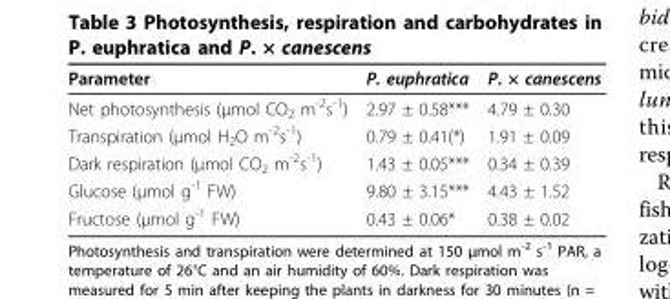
<table><thead><tr><td>Parameter</td><td>P. euphratica</td><td>P. × canescens</td></tr></thead><tbody><tr><td>Net photosynthesis (μmol CO<sub>2</sub> m<sup>-2</sup>s<sup>-1</sup>)</td><td>2.97 ± 0.58***</td><td>4.79 ± 0.30</td></tr><tr><td>Transpiration (μmol H<sub>2</sub>O m<sup>-2</sup>s<sup>-1</sup>)</td><td>0.79 ± 0.41(*)</td><td>1.91 ± 0.09</td></tr><tr><td>Dark respiration (μmol CO<sub>2</sub> m<sup>-2</sup>s<sup>-1</sup>)</td><td>1.43 ± 0.05***</td><td>0.34 ± 0.39</td></tr><tr><td>Glucose (μmol g<sup>-1</sup> FW)</td><td>9.80 ± 3.15***</td><td>4.43 ± 1.52</td></tr><tr><td>Fructose (μmol g<sup>-1</sup> FW)</td><td>0.43 ± 0.06*</td><td>0.38 ± 0.02</td></tr></tbody></table>